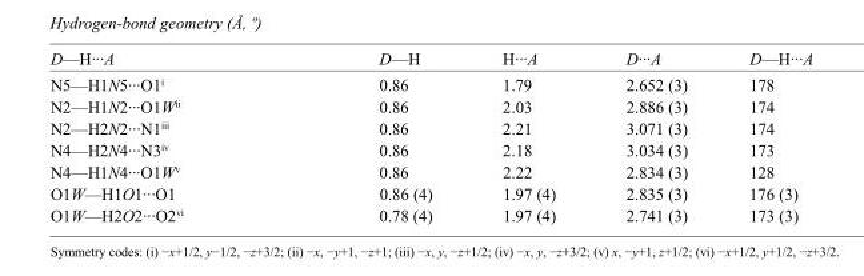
<table><tbody><tr><td>D—H···A</td><td>D—H</td><td>H···A</td><td>D···A</td><td>D—H···A</td></tr><tr><td>N5—H1N5···O1<sup>i</sup></td><td>0.86</td><td>1.79</td><td>2.652 (3)</td><td>178</td></tr><tr><td>N2—H1N2···O1W<sup>ii</sup></td><td>0.86</td><td>2.03</td><td>2.886 (3)</td><td>174</td></tr><tr><td>N2—H2N2···N1<sup>iii</sup></td><td>0.86</td><td>2.21</td><td>3.071 (3)</td><td>174</td></tr><tr><td>N4—H2N4···N3<sup>iv</sup></td><td>0.86</td><td>2.18</td><td>3.034 (3)</td><td>173</td></tr><tr><td>N4—H1N4···O1W<sup>v</sup></td><td>0.86</td><td>2.22</td><td>2.834 (3)</td><td>128</td></tr><tr><td>O1W—H1O1···O1</td><td>0.86 (4)</td><td>1.97 (4)</td><td>2.835 (3)</td><td>176 (3)</td></tr><tr><td>O1W—H2O2···O2<sup>vi</sup></td><td>0.78 (4)</td><td>1.97 (4)</td><td>2.741 (3)</td><td>173 (3)</td></tr></tbody></table>